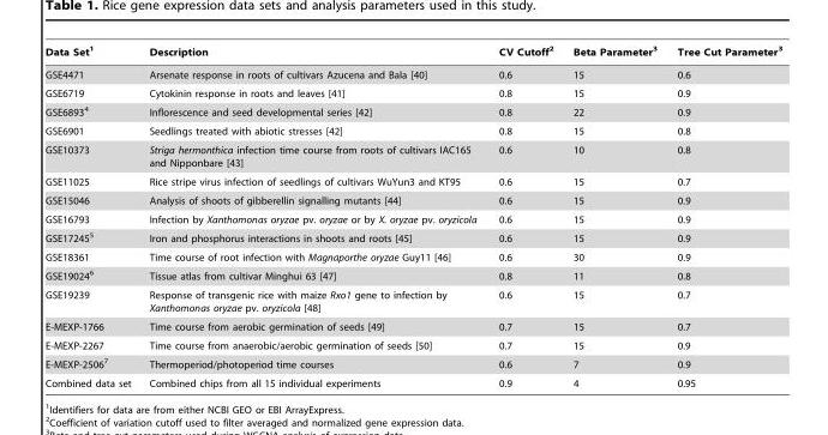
<table><thead><tr><td>Data Set<sup>1</sup></td><td>Description</td><td>CV Cutoff<sup>2</sup></td><td>Beta Parameter<sup>3</sup></td><td>Tree Cut Parameter<sup>3</sup></td></tr></thead><tbody><tr><td>GSE4471</td><td>Arsenate response in roots of cultivars Azucena and Bala [40]</td><td>0.6</td><td>15</td><td>0.6</td></tr><tr><td>GSE6719</td><td>Cytokinin response in roots and leaves [41]</td><td>0.8</td><td>15</td><td>0.9</td></tr><tr><td>GSE6893<sup>4</sup></td><td>Inflorescence and seed developmental series [42]</td><td>0.8</td><td>22</td><td>0.9</td></tr><tr><td>GSE6901</td><td>Seedlings treated with abiotic stresses [42]</td><td>0.8</td><td>15</td><td>0.8</td></tr><tr><td>GSE10373</td><td>Striga hermonthica infection time course from roots of cultivars IAC165 and Nipponbare [43]</td><td>0.6</td><td>10</td><td>0.8</td></tr><tr><td>GSE11025</td><td>Rice stripe virus infection of seedlings of cultivars WuYun3 and KT95</td><td>0.6</td><td>15</td><td>0.7</td></tr><tr><td>GSE15046</td><td>Analysis of shoots of gibberellin signalling mutants [44]</td><td>0.6</td><td>15</td><td>0.9</td></tr><tr><td>GSE16793</td><td>Infection by Xanthomonas oryzae pv. oryzae or by X. oryzae pv. oryzicola</td><td>0.6</td><td>15</td><td>0.9</td></tr><tr><td>GSE17245<sup>5</sup></td><td>Iron and phosphorus interactions in shoots and roots [45]</td><td>0.6</td><td>15</td><td>0.9</td></tr><tr><td>GSE18361</td><td>Time course of root infection with Magnaporthe oryzae Guy11 [46]</td><td>0.6</td><td>30</td><td>0.9</td></tr><tr><td>GSE19024<sup>6</sup></td><td>Tissue atlas from cultivar Minghui 63 [47]</td><td>0.8</td><td>11</td><td>0.8</td></tr><tr><td>GSE19239</td><td>Response of transgenic rice with maize Rxo1 gene to infection by Xanthomonas oryzae pv. oryzicola [48]</td><td>0.6</td><td>15</td><td>0.7</td></tr><tr><td>E-MEXP-1766</td><td>Time course from aerobic germination of seeds [49]</td><td>0.7</td><td>15</td><td>0.7</td></tr><tr><td>E-MEXP-2267</td><td>Time course from anaerobic/aerobic germination of seeds [50]</td><td>0.7</td><td>15</td><td>0.9</td></tr><tr><td>E-MEXP-2506<sup>7</sup></td><td>Thermoperiod/photoperiod time courses</td><td>0.6</td><td>7</td><td>0.9</td></tr><tr><td>Combined data set</td><td>Combined chips from all 15 individual experiments</td><td>0.9</td><td>4</td><td>0.95</td></tr></tbody></table>